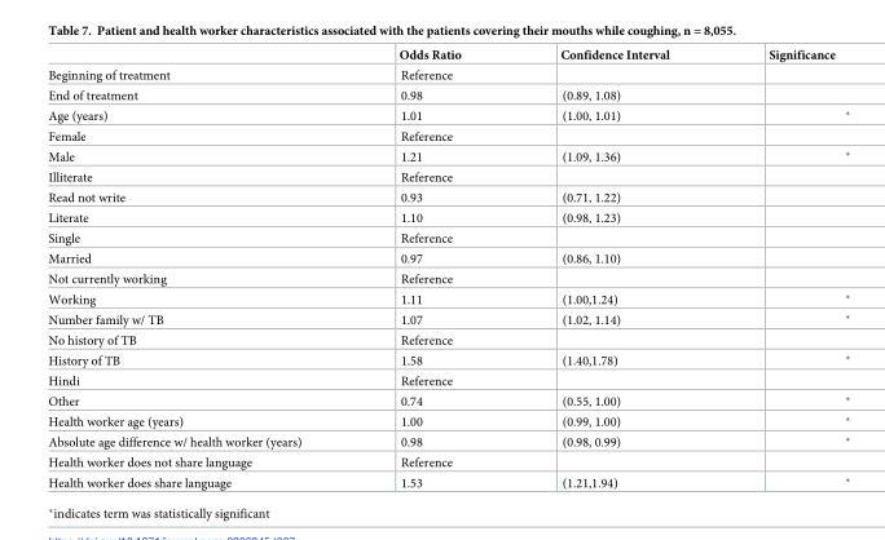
<table><thead><tr><td></td><td>Odds Ratio</td><td>Confidence Interval</td><td>Significance</td></tr></thead><tbody><tr><td>Beginning of treatment</td><td>Reference</td><td></td><td></td></tr><tr><td>End of treatment</td><td>0.98</td><td>(0.89, 1.08)</td><td></td></tr><tr><td>Age (years)</td><td>1.01</td><td>(1.00, 1.01)</td><td></td></tr><tr><td>Female</td><td>Reference</td><td></td><td></td></tr><tr><td>Male</td><td>1.21</td><td>(1.09, 1.36)</td><td></td></tr><tr><td>Illiterate</td><td>Reference</td><td></td><td></td></tr><tr><td>Read not write</td><td>0.93</td><td>(0.71, 1.22)</td><td></td></tr><tr><td>Literate</td><td>1.10</td><td>(0.98, 1.23)</td><td></td></tr><tr><td>Single</td><td>Reference</td><td></td><td></td></tr><tr><td>Married</td><td>0.97</td><td>(0.86, 1.10)</td><td></td></tr><tr><td>Not currently working</td><td>Reference</td><td></td><td></td></tr><tr><td>Working</td><td>1.11</td><td>(1.00,1.24)</td><td></td></tr><tr><td>Number family w/ TB</td><td>1.07</td><td>(1.02, 1.14)</td><td></td></tr><tr><td>No history of TB</td><td>Reference</td><td></td><td></td></tr><tr><td>History of TB</td><td>1.58</td><td>(1.40,1.78)</td><td></td></tr><tr><td>Hindi</td><td>Reference</td><td></td><td></td></tr><tr><td>Other</td><td>0.74</td><td>(0.55, 1.00)</td><td></td></tr><tr><td>Health worker age (years)</td><td>1.00</td><td>(0.99, 1.00)</td><td></td></tr><tr><td>Absolute age difference w/ health worker (years)</td><td>0.98</td><td>(0.98, 0.99)</td><td></td></tr><tr><td>Health worker does not share language</td><td>Reference</td><td></td><td></td></tr><tr><td>Health worker does share language</td><td>1.53</td><td>(1.21,1.94)</td><td></td></tr></tbody></table>